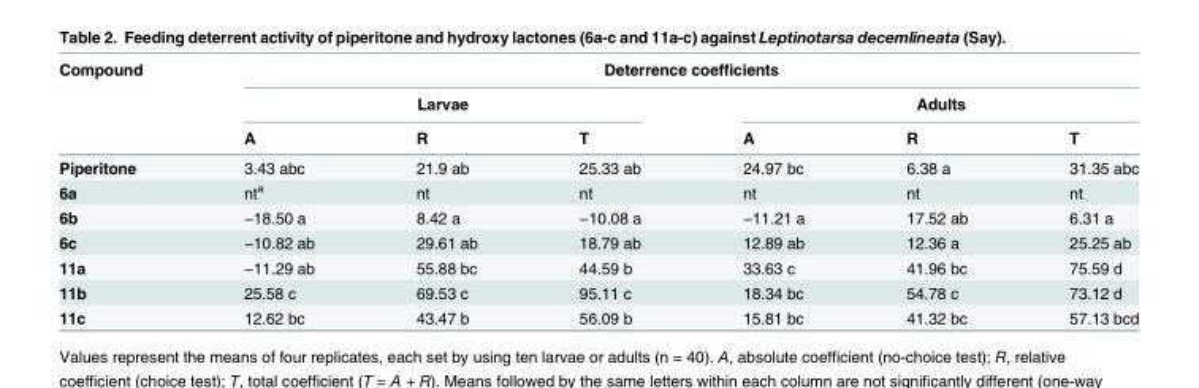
<table><thead><tr><td rowspan="3">Compound</td><td colspan="6">Deterrence coefficients</td></tr><tr><td colspan="3">Larvae</td><td colspan="3">Adults</td></tr><tr><td>A</td><td>R</td><td>T</td><td>A</td><td>R</td><td>T</td></tr></thead><tbody><tr><td>Piperitone</td><td>3.43 abc</td><td>21.9 ab</td><td>25.33 ab</td><td>24.97 bc</td><td>6.38 a</td><td>31.35 abc</td></tr><tr><td>6a</td><td>nt<sup>a</sup></td><td>nt</td><td>nt</td><td>nt</td><td>nt</td><td>nt</td></tr><tr><td>6b</td><td>−18.50 a</td><td>8.42 a</td><td>−10.08 a</td><td>−11.21 a</td><td>17.52 ab</td><td>6.31 a</td></tr><tr><td>6c</td><td>−10.82 ab</td><td>29.61 ab</td><td>18.79 ab</td><td>12.89 ab</td><td>12.36 a</td><td>25.25 ab</td></tr><tr><td>11a</td><td>−11.29 ab</td><td>55.88 bc</td><td>44.59 b</td><td>33.63 c</td><td>41.96 bc</td><td>75.59 d</td></tr><tr><td>11b</td><td>25.58 c</td><td>69.53 c</td><td>95.11 c</td><td>18.34 bc</td><td>54.78 c</td><td>73.12 d</td></tr><tr><td>11c</td><td>12.62 bc</td><td>43.47 b</td><td>56.09 b</td><td>15.81 bc</td><td>41.32 bc</td><td>57.13 bcd</td></tr></tbody></table>